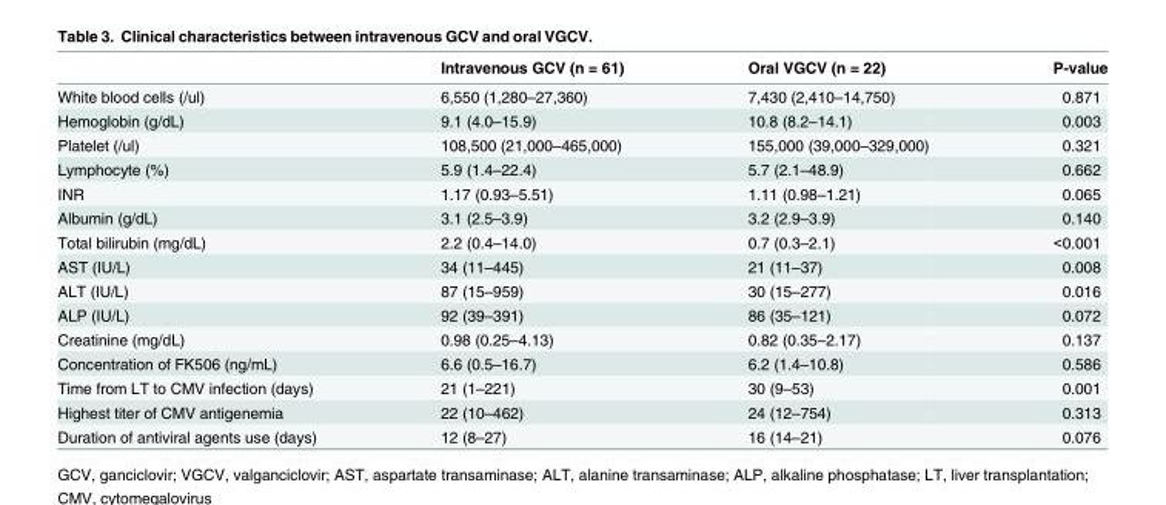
<table><thead><tr><td></td><td>Intravenous GCV (n = 61)</td><td>Oral VGCV (n = 22)</td><td>P-value</td></tr></thead><tbody><tr><td>White blood cells (/ul)</td><td>6,550 (1,280–27,360)</td><td>7,430 (2,410–14,750)</td><td>0.871</td></tr><tr><td>Hemoglobin (g/dL)</td><td>9.1 (4.0–15.9)</td><td>10.8 (8.2–14.1)</td><td>0.003</td></tr><tr><td>Platelet (/ul)</td><td>108,500 (21,000–465,000)</td><td>155,000 (39,000–329,000)</td><td>0.321</td></tr><tr><td>Lymphocyte (%)</td><td>5.9 (1.4–22.4)</td><td>5.7 (2.1–48.9)</td><td>0.662</td></tr><tr><td>INR</td><td>1.17 (0.93–5.51)</td><td>1.11 (0.98–1.21)</td><td>0.065</td></tr><tr><td>Albumin (g/dL)</td><td>3.1 (2.5–3.9)</td><td>3.2 (2.9–3.9)</td><td>0.140</td></tr><tr><td>Total bilirubin (mg/dL)</td><td>2.2 (0.4–14.0)</td><td>0.7 (0.3–2.1)</td><td>&lt;0.001</td></tr><tr><td>AST (IU/L)</td><td>34 (11–445)</td><td>21 (11–37)</td><td>0.008</td></tr><tr><td>ALT (IU/L)</td><td>87 (15–959)</td><td>30 (15–277)</td><td>0.016</td></tr><tr><td>ALP (IU/L)</td><td>92 (39–391)</td><td>86 (35–121)</td><td>0.072</td></tr><tr><td>Creatinine (mg/dL)</td><td>0.98 (0.25–4.13)</td><td>0.82 (0.35–2.17)</td><td>0.137</td></tr><tr><td>Concentration of FK506 (ng/mL)</td><td>6.6 (0.5–16.7)</td><td>6.2 (1.4–10.8)</td><td>0.586</td></tr><tr><td>Time from LT to CMV infection (days)</td><td>21 (1–221)</td><td>30 (9–53)</td><td>0.001</td></tr><tr><td>Highest titer of CMV antigenemia</td><td>22 (10–462)</td><td>24 (12–754)</td><td>0.313</td></tr><tr><td>Duration of antiviral agents use (days)</td><td>12 (8–27)</td><td>16 (14–21)</td><td>0.076</td></tr></tbody></table>